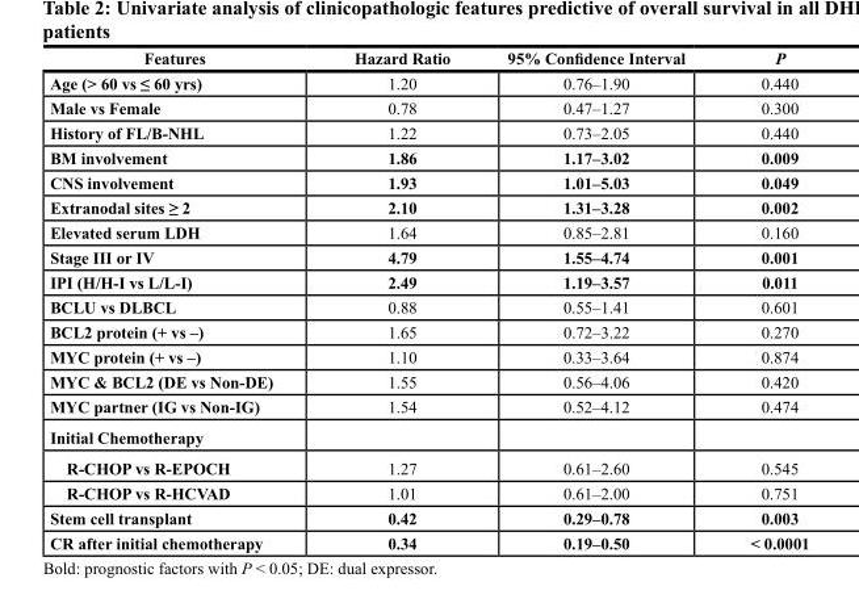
<table><thead><tr><td>Features</td><td>Hazard ratio</td><td>95% Confidence Interval</td><td>P</td></tr></thead><tbody><tr><td>Age (&gt; 60 vs ≤ 60 yrs)</td><td>1.20</td><td>0.76–1.90</td><td>0.440</td></tr><tr><td>Male vs Female</td><td>0.78</td><td>0.47–1.27</td><td>0.300</td></tr><tr><td>History of FL/b-NHL</td><td>1.22</td><td>0.73–2.05</td><td>0.440</td></tr><tr><td>bM involvement</td><td>1.86</td><td>1.17–3.02</td><td>0.009</td></tr><tr><td>cNs involvement</td><td>1.93</td><td>1.01–5.03</td><td>0.049</td></tr><tr><td>Extranodal sites ≥ 2</td><td>2.10</td><td>1.31–3.28</td><td>0.002</td></tr><tr><td>Elevated serum LDH</td><td>1.64</td><td>0.85–2.81</td><td>0.160</td></tr><tr><td>stage III or IV</td><td>4.79</td><td>1.55–4.74</td><td>0.001</td></tr><tr><td>IPI (H/H-I vs L/L-I)</td><td>2.49</td><td>1.19–3.57</td><td>0.011</td></tr><tr><td>bcLU vs DLbcL</td><td>0.88</td><td>0.55–1.41</td><td>0.601</td></tr><tr><td>BCL2 protein (+ vs –)</td><td>1.65</td><td>0.72–3.22</td><td>0.270</td></tr><tr><td>MYC protein (+ vs –)</td><td>1.10</td><td>0.33–3.64</td><td>0.874</td></tr><tr><td>MYC &amp; BCL2 (DE vs Non-DE)</td><td>1.55</td><td>0.56–4.06</td><td>0.420</td></tr><tr><td>MYc partner (IG vs Non-IG)</td><td>1.54</td><td>0.52–4.12</td><td>0.474</td></tr><tr><td colspan="4">Initial chemotherapy</td></tr><tr><td>r-cHOP vs r-EPOcH</td><td>1.27</td><td>0.61–2.60</td><td>0.545</td></tr><tr><td>r-cHOP vs r-HcVAD</td><td>1.01</td><td>0.61–2.00</td><td>0.751</td></tr><tr><td>stem cell transplant</td><td>0.42</td><td>0.29–0.78</td><td>0.003</td></tr><tr><td>cr after initial chemotherapy</td><td>0.34</td><td>0.19–0.50</td><td>&lt; 0.0001</td></tr></tbody></table>